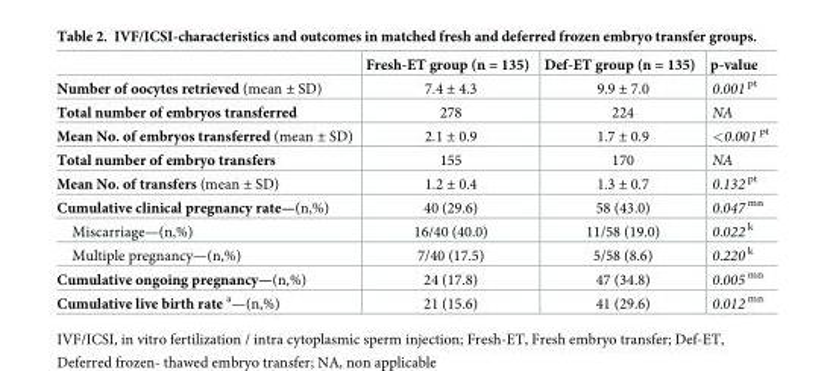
<table><thead><tr><td></td><td>Fresh-ET group (n = 135)</td><td>Def-ET group (n = 135)</td><td>p-value</td></tr></thead><tbody><tr><td>Number of oocytes retrieved (mean ± SD)</td><td>7.4 ± 4.3</td><td>9.9 ± 7.0</td><td>0.001 <sup>pt</sup></td></tr><tr><td>Total number of embryos transferred</td><td>278</td><td>224</td><td>NA</td></tr><tr><td>Mean No. of embryos transferred (mean ± SD)</td><td>2.1 ± 0.9</td><td>1.7 ± 0.9</td><td>&lt;0.001 <sup>pt</sup></td></tr><tr><td>Total number of embryo transfers</td><td>155</td><td>170</td><td>NA</td></tr><tr><td>Mean No. of transfers (mean ± SD)</td><td>1.2 ± 0.4</td><td>1.3 ± 0.7</td><td>0.132 <sup>pt</sup></td></tr><tr><td>Cumulative clinical pregnancy rate—(n,%)</td><td>40 (29.6)</td><td>58 (43.0)</td><td>0.047 <sup>mn</sup></td></tr><tr><td>Miscarriage—(n,%)</td><td>16/40 (40.0)</td><td>11/58 (19.0)</td><td>0.022 <sup>k</sup></td></tr><tr><td>Multiple pregnancy—(n,%)</td><td>7/40 (17.5)</td><td>5/58 (8.6)</td><td>0.220 <sup>k</sup></td></tr><tr><td>Cumulative ongoing pregnancy—(n,%)</td><td>24 (17.8)</td><td>47 (34.8)</td><td>0.005 <sup>mn</sup></td></tr><tr><td>Cumulative live birth rate <sup>a</sup>—(n,%)</td><td>21 (15.6)</td><td>41 (29.6)</td><td>0.012 <sup>mn</sup></td></tr></tbody></table>